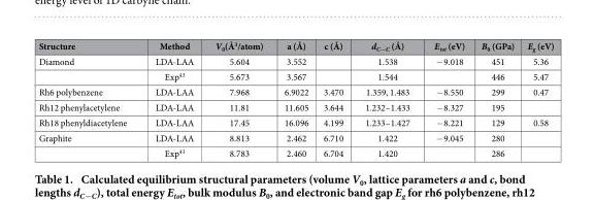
<table><thead><tr><td>Structure</td><td>Method</td><td>V<sub>0</sub>(Å<sup>3</sup>/atom)</td><td>a (Å)</td><td>c (Å)</td><td>d<sub>C−C</sub> (Å)</td><td>E<sub>tot</sub> (eV)</td><td>B<sub>0</sub> (GPa)</td><td>E<sub>g</sub> (eV)</td></tr></thead><tbody><tr><td rowspan="2">Diamond</td><td>LDA-LAA</td><td>5.604</td><td>3.552</td><td></td><td>1.538</td><td>− 9.018</td><td>451</td><td>5.36</td></tr><tr><td>Exp<sup>43</sup></td><td>5.673</td><td>3.567</td><td></td><td>1.544</td><td></td><td>446</td><td>5.47</td></tr><tr><td>Rh6 polybenzene</td><td>LDA-LAA</td><td>7.968</td><td>6.9022</td><td>3.470</td><td>1.359, 1.483</td><td>− 8.550</td><td>299</td><td>0.47</td></tr><tr><td>Rh12 phenylacetylene</td><td>LDA-LAA</td><td>11.81</td><td>11.605</td><td>3.644</td><td>1.232– 1.433</td><td>− 8.327</td><td>195</td><td></td></tr><tr><td>Rh18 phenyldiacetylene</td><td>LDA-LAA</td><td>17.45</td><td>16.096</td><td>4.199</td><td>1.233– 1.427</td><td>− 8.221</td><td>129</td><td>0.58</td></tr><tr><td rowspan="2">Graphite</td><td>LDA-LAA</td><td>8.813</td><td>2.462</td><td>6.710</td><td>1.422</td><td>− 9.045</td><td>280</td><td></td></tr><tr><td>Exp<sup>43</sup></td><td>8.783</td><td>2.460</td><td>6.704</td><td>1.420</td><td></td><td>286</td><td></td></tr></tbody></table>